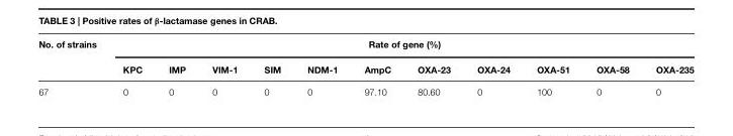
<table><thead><tr><td rowspan="2">No. of strains</td><td colspan="11">Rate of gene (%)</td></tr><tr><td>KPC</td><td>IMP</td><td>VIM-1</td><td>SIM</td><td>NDM-1</td><td>AmpC</td><td>OXA-23</td><td>OXA-24</td><td>OXA-51</td><td>OXA-58</td><td>OXA-235</td></tr></thead><tbody><tr><td>67</td><td>0</td><td>0</td><td>0</td><td>0</td><td>0</td><td>97.10</td><td>80.60</td><td>0</td><td>100</td><td>0</td><td>0</td></tr></tbody></table>